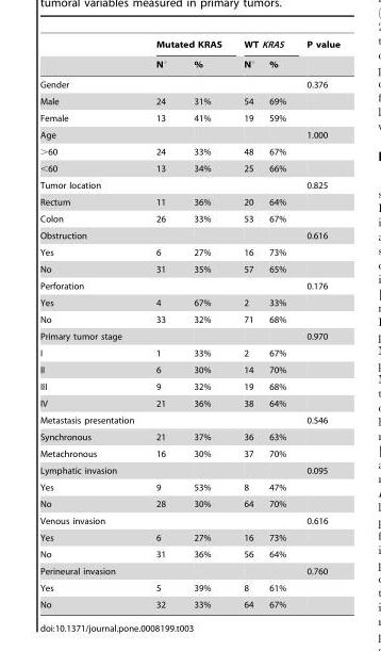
<table><thead><tr><td rowspan="2"></td><td colspan="2">Mutated KRAS</td><td colspan="2">WT KRAS</td><td rowspan="2">P value</td></tr><tr><td>N°</td><td>%</td><td>N°</td><td>%</td></tr></thead><tbody><tr><td>Gender</td><td></td><td></td><td></td><td></td><td>0.376</td></tr><tr><td>Male</td><td>24</td><td>31%</td><td>54</td><td>69%</td><td></td></tr><tr><td>Female</td><td>13</td><td>41%</td><td>19</td><td>59%</td><td></td></tr><tr><td>Age</td><td></td><td></td><td></td><td></td><td>1.000</td></tr><tr><td>&gt;60</td><td>24</td><td>33%</td><td>48</td><td>67%</td><td></td></tr><tr><td>&lt;60</td><td>13</td><td>34%</td><td>25</td><td>66%</td><td></td></tr><tr><td>Tumor location</td><td></td><td></td><td></td><td></td><td>0.825</td></tr><tr><td>Rectum</td><td>11</td><td>36%</td><td>20</td><td>64%</td><td></td></tr><tr><td>Colon</td><td>26</td><td>33%</td><td>53</td><td>67%</td><td></td></tr><tr><td>Obstruction</td><td></td><td></td><td></td><td></td><td>0.616</td></tr><tr><td>Yes</td><td>6</td><td>27%</td><td>16</td><td>73%</td><td></td></tr><tr><td>No</td><td>31</td><td>35%</td><td>57</td><td>65%</td><td></td></tr><tr><td>Perforation</td><td></td><td></td><td></td><td></td><td>0.176</td></tr><tr><td>Yes</td><td>4</td><td>67%</td><td>2</td><td>33%</td><td></td></tr><tr><td>No</td><td>33</td><td>32%</td><td>71</td><td>68%</td><td></td></tr><tr><td>Primary tumor stage</td><td></td><td></td><td></td><td></td><td>0.970</td></tr><tr><td>I</td><td>1</td><td>33%</td><td>2</td><td>67%</td><td></td></tr><tr><td>II</td><td>6</td><td>30%</td><td>14</td><td>70%</td><td></td></tr><tr><td>III</td><td>9</td><td>32%</td><td>19</td><td>68%</td><td></td></tr><tr><td>IV</td><td>21</td><td>36%</td><td>38</td><td>64%</td><td></td></tr><tr><td>Metastasis presentation</td><td></td><td></td><td></td><td></td><td>0.546</td></tr><tr><td>Synchronous</td><td>21</td><td>37%</td><td>36</td><td>63%</td><td></td></tr><tr><td>Metachronous</td><td>16</td><td>30%</td><td>37</td><td>70%</td><td></td></tr><tr><td>Lymphatic invasion</td><td></td><td></td><td></td><td></td><td>0.095</td></tr><tr><td>Yes</td><td>9</td><td>53%</td><td>8</td><td>47%</td><td></td></tr><tr><td>No</td><td>28</td><td>30%</td><td>64</td><td>70%</td><td></td></tr><tr><td>Venous invasion</td><td></td><td></td><td></td><td></td><td>0.616</td></tr><tr><td>Yes</td><td>6</td><td>27%</td><td>16</td><td>73%</td><td></td></tr><tr><td>No</td><td>31</td><td>36%</td><td>56</td><td>64%</td><td></td></tr><tr><td>Perineural invasion</td><td></td><td></td><td></td><td></td><td>0.760</td></tr><tr><td>Yes</td><td>5</td><td>39%</td><td>8</td><td>61%</td><td></td></tr><tr><td>No</td><td>32</td><td>33%</td><td>64</td><td>67%</td><td></td></tr></tbody></table>